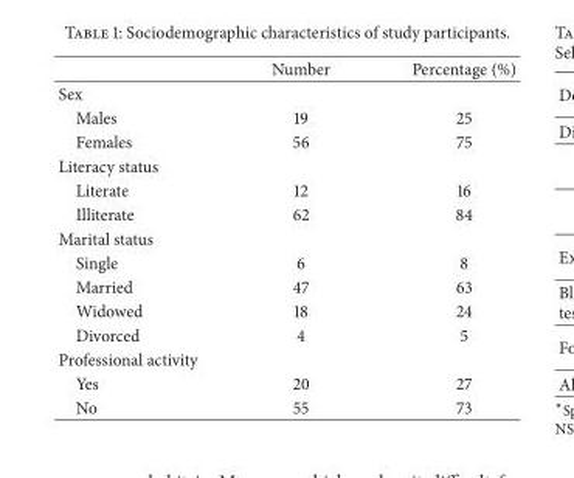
<table><thead><tr><td></td><td>Number</td><td>Percentage (%)</td></tr></thead><tbody><tr><td colspan="3">Sex</td></tr><tr><td>Males</td><td>19</td><td>25</td></tr><tr><td>Females</td><td>56</td><td>75</td></tr><tr><td colspan="3">Literacy status</td></tr><tr><td>Literate</td><td>12</td><td>16</td></tr><tr><td>Illiterate</td><td>62</td><td>84</td></tr><tr><td colspan="3">Marital status</td></tr><tr><td>Single</td><td>6</td><td>8</td></tr><tr><td>Married</td><td>47</td><td>63</td></tr><tr><td>Widowed</td><td>18</td><td>24</td></tr><tr><td>Divorced</td><td>4</td><td>5</td></tr><tr><td colspan="3">Professional activity</td></tr><tr><td>Yes</td><td>20</td><td>27</td></tr><tr><td>No</td><td>55</td><td>73</td></tr></tbody></table>